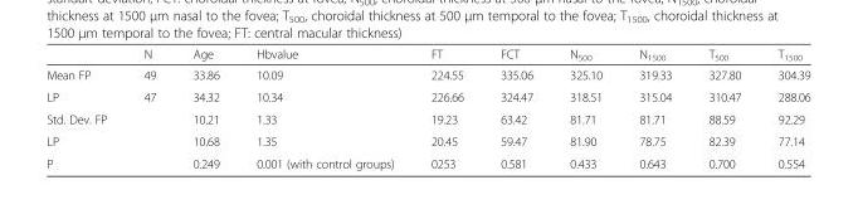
<table><thead><tr><td></td><td>N</td><td>Age</td><td>Hbvalue</td><td>FT</td><td>FCT</td><td>N<sub>500</sub></td><td>N<sub>1500</sub></td><td>T<sub>500</sub></td><td>T<sub>1500</sub></td></tr></thead><tbody><tr><td>Mean FP</td><td>49</td><td>33.86</td><td>10.09</td><td>224.55</td><td>335.06</td><td>325.10</td><td>319.33</td><td>327.80</td><td>304.39</td></tr><tr><td>LP</td><td>47</td><td>34.32</td><td>10.34</td><td>226.66</td><td>324.47</td><td>318.51</td><td>315.04</td><td>310.47</td><td>288.06</td></tr><tr><td>Std. Dev. FP</td><td></td><td>10.21</td><td>1.33</td><td>19.23</td><td>63.42</td><td>81.71</td><td>81.71</td><td>88.59</td><td>92.29</td></tr><tr><td>LP</td><td></td><td>10.68</td><td>1.35</td><td>20.45</td><td>59.47</td><td>81.90</td><td>78.75</td><td>82.39</td><td>77.14</td></tr><tr><td>P</td><td></td><td>0.249</td><td>0.001 (with control groups)</td><td>0253</td><td>0.581</td><td>0.433</td><td>0.643</td><td>0.700</td><td>0.554</td></tr></tbody></table>